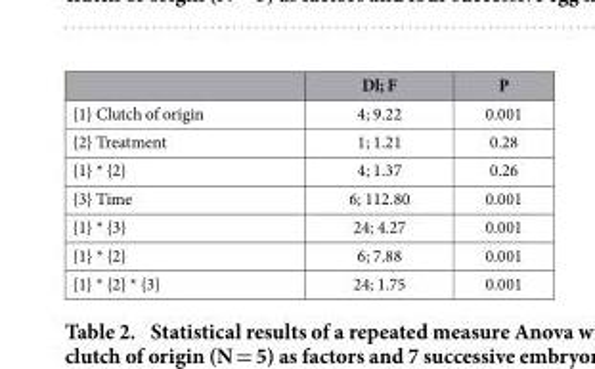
<table><thead><tr><td></td><td>Dl; F</td><td>P</td></tr></thead><tbody><tr><td>{1} Clutch of origin</td><td>4; 9.22</td><td>0.001</td></tr><tr><td>{2} Treatment</td><td>1; 1.21</td><td>0.28</td></tr><tr><td>{1} * {2}</td><td>4; 1.37</td><td>0.26</td></tr><tr><td>{3} Time</td><td>6; 112.80</td><td>0.001</td></tr><tr><td>{1} * {3}</td><td>24; 4.27</td><td>0.001</td></tr><tr><td>{1} * {2}</td><td>6; 7.88</td><td>0.001</td></tr><tr><td>{1} * {2} * {3}</td><td>24; 1.75</td><td>0.001</td></tr></tbody></table>